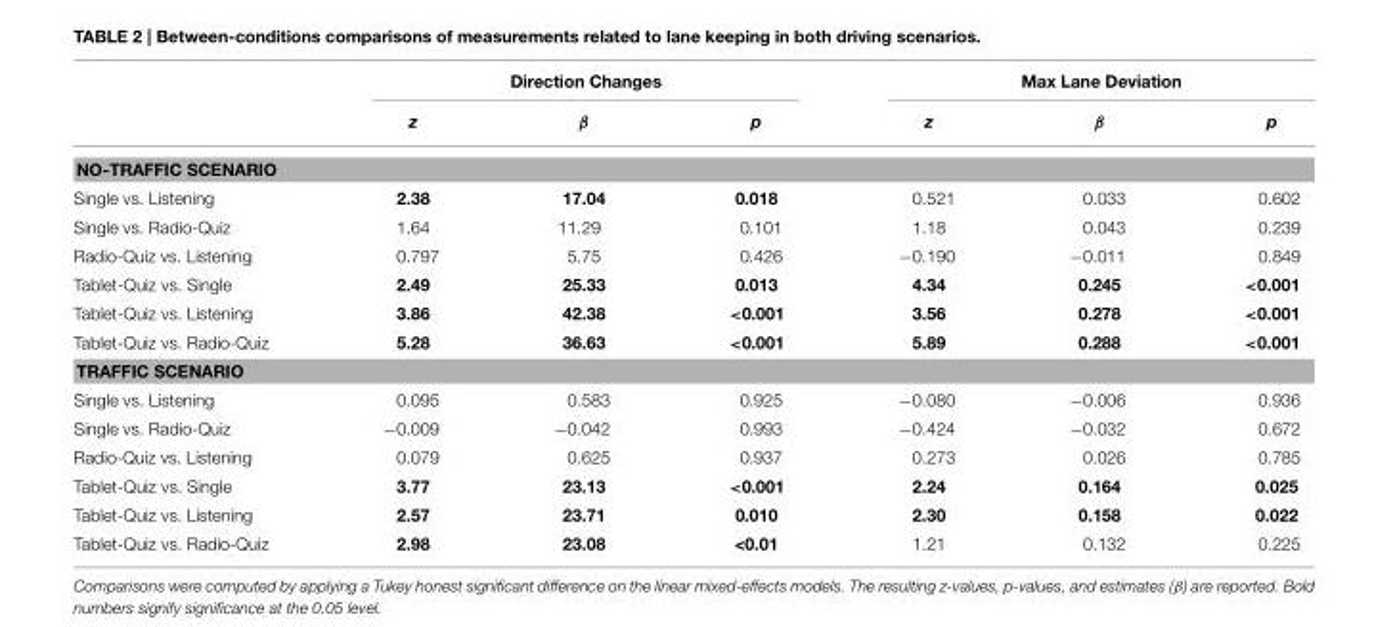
<table><thead><tr><td rowspan="2"></td><td colspan="3">Direction Changes</td><td colspan="3">Max Lane Deviation</td></tr><tr><td>z</td><td>β</td><td>p</td><td>z</td><td>β</td><td>p</td></tr></thead><tbody><tr><td colspan="7">NO-TRAFFIC SCENARIO</td></tr><tr><td>Single vs. Listening</td><td>2.38</td><td>17.04</td><td>0.018</td><td>0.521</td><td>0.033</td><td>0.602</td></tr><tr><td>Single vs. Radio-Quiz</td><td>1.64</td><td>11.29</td><td>0.101</td><td>1.18</td><td>0.043</td><td>0.239</td></tr><tr><td>Radio-Quiz vs. Listening</td><td>0.797</td><td>5.75</td><td>0.426</td><td>−0.190</td><td>−0.011</td><td>0.849</td></tr><tr><td>Tablet-Quiz vs. Single</td><td>2.49</td><td>25.33</td><td>0.013</td><td>4.34</td><td>0.245</td><td>&lt;0.001</td></tr><tr><td>Tablet-Quiz vs. Listening</td><td>3.86</td><td>42.38</td><td>&lt;0.001</td><td>3.56</td><td>0.278</td><td>&lt;0.001</td></tr><tr><td>Tablet-Quiz vs. Radio-Quiz</td><td>5.28</td><td>36.63</td><td>&lt;0.001</td><td>5.89</td><td>0.288</td><td>&lt;0.001</td></tr><tr><td colspan="7">TRAFFIC SCENARIO</td></tr><tr><td>Single vs. Listening</td><td>0.095</td><td>0.583</td><td>0.925</td><td>−0.080</td><td>−0.006</td><td>0.936</td></tr><tr><td>Single vs. Radio-Quiz</td><td>−0.009</td><td>−0.042</td><td>0.993</td><td>−0.424</td><td>−0.032</td><td>0.672</td></tr><tr><td>Radio-Quiz vs. Listening</td><td>0.079</td><td>0.625</td><td>0.937</td><td>0.273</td><td>0.026</td><td>0.785</td></tr><tr><td>Tablet-Quiz vs. Single</td><td>3.77</td><td>23.13</td><td>&lt;0.001</td><td>2.24</td><td>0.164</td><td>0.025</td></tr><tr><td>Tablet-Quiz vs. Listening</td><td>2.57</td><td>23.71</td><td>0.010</td><td>2.30</td><td>0.158</td><td>0.022</td></tr><tr><td>Tablet-Quiz vs. Radio-Quiz</td><td>2.98</td><td>23.08</td><td>&lt;0.01</td><td>1.21</td><td>0.132</td><td>0.225</td></tr></tbody></table>